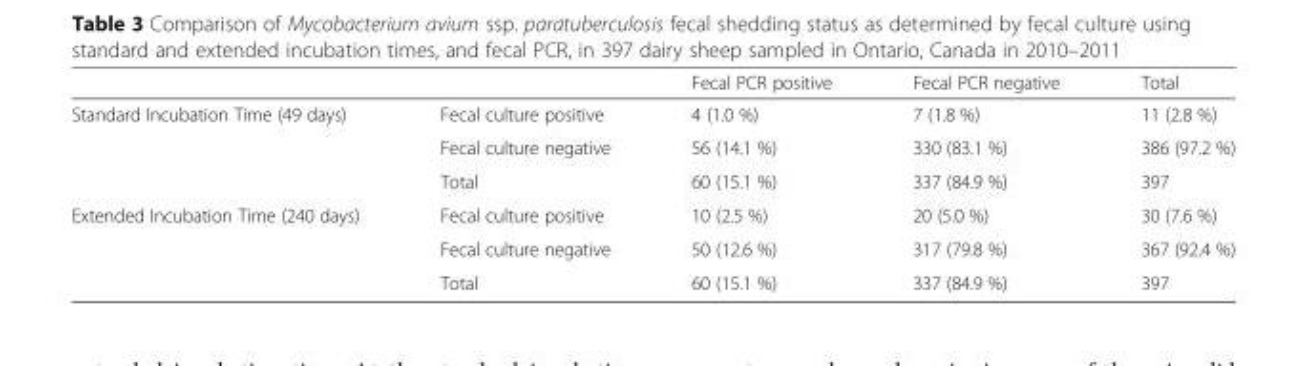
<table><thead><tr><td></td><td></td><td>Fecal PCR positive</td><td>Fecal PCR negative</td><td>Total</td></tr></thead><tbody><tr><td rowspan="3">Standard Incubation Time (49 days)</td><td>Fecal culture positive</td><td>4 (1.0 %)</td><td>7 (1.8 %)</td><td>11 (2.8 %)</td></tr><tr><td>Fecal culture negative</td><td>56 (14.1 %)</td><td>330 (83.1 %)</td><td>386 (97.2 %)</td></tr><tr><td>Total</td><td>60 (15.1 %)</td><td>337 (84.9 %)</td><td>397</td></tr><tr><td rowspan="3">Extended Incubation Time (240 days)</td><td>Fecal culture positive</td><td>10 (2.5 %)</td><td>20 (5.0 %)</td><td>30 (7.6 %)</td></tr><tr><td>Fecal culture negative</td><td>50 (12.6 %)</td><td>317 (79.8 %)</td><td>367 (92.4 %)</td></tr><tr><td>Total</td><td>60 (15.1 %)</td><td>337 (84.9 %)</td><td>397</td></tr></tbody></table>